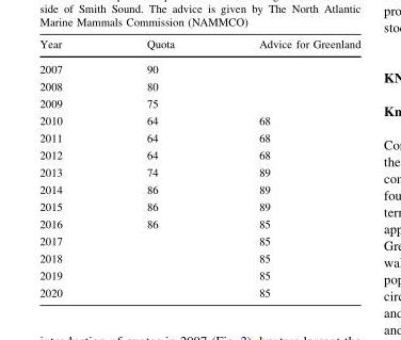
<table><thead><tr><td>Year</td><td>Quota</td><td>Advice for Greenland</td></tr></thead><tbody><tr><td>2007</td><td>90</td><td></td></tr><tr><td>2008</td><td>80</td><td></td></tr><tr><td>2009</td><td>75</td><td></td></tr><tr><td>2010</td><td>64</td><td>68</td></tr><tr><td>2011</td><td>64</td><td>68</td></tr><tr><td>2012</td><td>64</td><td>68</td></tr><tr><td>2013</td><td>74</td><td>89</td></tr><tr><td>2014</td><td>86</td><td>89</td></tr><tr><td>2015</td><td>86</td><td>89</td></tr><tr><td>2016</td><td>86</td><td>85</td></tr><tr><td>2017</td><td></td><td>85</td></tr><tr><td>2018</td><td></td><td>85</td></tr><tr><td>2019</td><td></td><td>85</td></tr><tr><td>2020</td><td></td><td>85</td></tr></tbody></table>